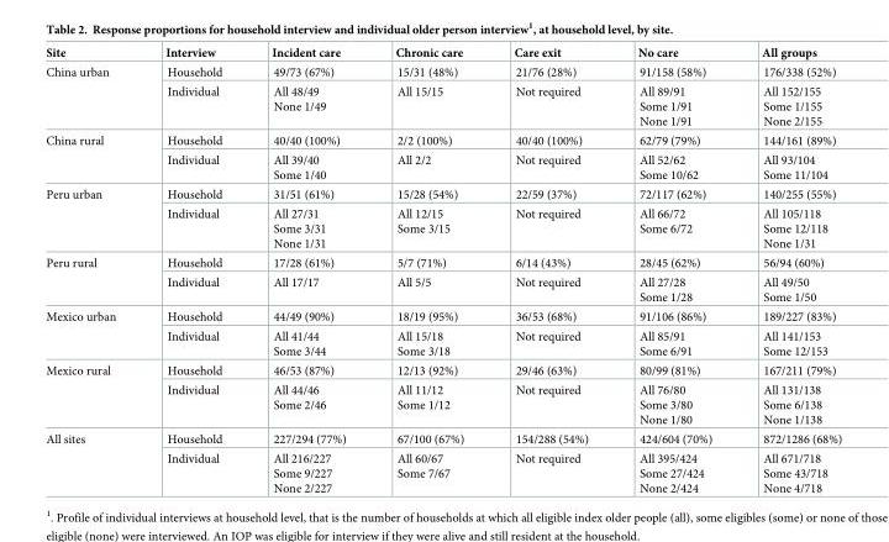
<table><thead><tr><td>Site</td><td>Interview</td><td>Incident care</td><td>Chronic care</td><td>Care exit</td><td>No care</td><td>All groups</td></tr></thead><tbody><tr><td rowspan="2">China urban</td><td>Household</td><td>49/73 (67%)</td><td>15/31 (48%)</td><td>21/76 (28%)</td><td>91/158 (58%)</td><td>176/338 (52%)</td></tr><tr><td>Individual</td><td>All 48/49 None 1/49</td><td>All 15/15</td><td>Not required</td><td>All 89/91 Some 1/91 None 1/91</td><td>All 152/155 Some 1/155 None 2/155</td></tr><tr><td rowspan="2">China rural</td><td>Household</td><td>40/40 (100%)</td><td>2/2 (100%)</td><td>40/40 (100%)</td><td>62/79 (79%)</td><td>144/161 (89%)</td></tr><tr><td>Individual</td><td>All 39/40 Some 1/40</td><td>All 2/2</td><td>Not required</td><td>All 52/62 Some 10/62</td><td>All 93/104 Some 11/104</td></tr><tr><td rowspan="2">Peru urban</td><td>Household</td><td>31/51 (61%)</td><td>15/28 (54%)</td><td>22/59 (37%)</td><td>72/117 (62%)</td><td>140/255 (55%)</td></tr><tr><td>Individual</td><td>All 27/31 Some 3/31 None 1/31</td><td>All 12/15 Some 3/15</td><td>Not required</td><td>All 66/72 Some 6/72</td><td>All 105/118 Some 12/118 None 1/31</td></tr><tr><td rowspan="2">Peru rural</td><td>Household</td><td>17/28 (61%)</td><td>5/7 (71%)</td><td>6/14 (43%)</td><td>28/45 (62%)</td><td>56/94 (60%)</td></tr><tr><td>Individual</td><td>All 17/17</td><td>All 5/5</td><td>Not required</td><td>All 27/28 Some 1/28</td><td>All 49/50 Some 1/50</td></tr><tr><td rowspan="2">Mexico urban</td><td>Household</td><td>44/49 (90%)</td><td>18/19 (95%)</td><td>36/53 (68%)</td><td>91/106 (86%)</td><td>189/227 (83%)</td></tr><tr><td>Individual</td><td>All 41/44 Some 3/44</td><td>All 15/18 Some 3/18</td><td>Not required</td><td>All 85/91 Some 6/91</td><td>All 141/153 Some 12/153</td></tr><tr><td rowspan="2">Mexico rural</td><td>Household</td><td>46/53 (87%)</td><td>12/13 (92%)</td><td>29/46 (63%)</td><td>80/99 (81%)</td><td>167/211 (79%)</td></tr><tr><td>Individual</td><td>All 44/46 Some 2/46</td><td>All 11/12 Some 1/12</td><td>Not required</td><td>All 76/80 Some 3/80 None 1/80</td><td>All 131/138 Some 6/138 None 1/138</td></tr><tr><td rowspan="2">All sites</td><td>Household</td><td>227/294 (77%)</td><td>67/100 (67%)</td><td>154/288 (54%)</td><td>424/604 (70%)</td><td>872/1286 (68%)</td></tr><tr><td>Individual</td><td>All 216/227 Some 9/227 None 2/227</td><td>All 60/67 Some 7/67</td><td>Not required</td><td>All 395/424 Some 27/424 None 2/424</td><td>All 671/718 Some 43/718 None 4/718</td></tr></tbody></table>